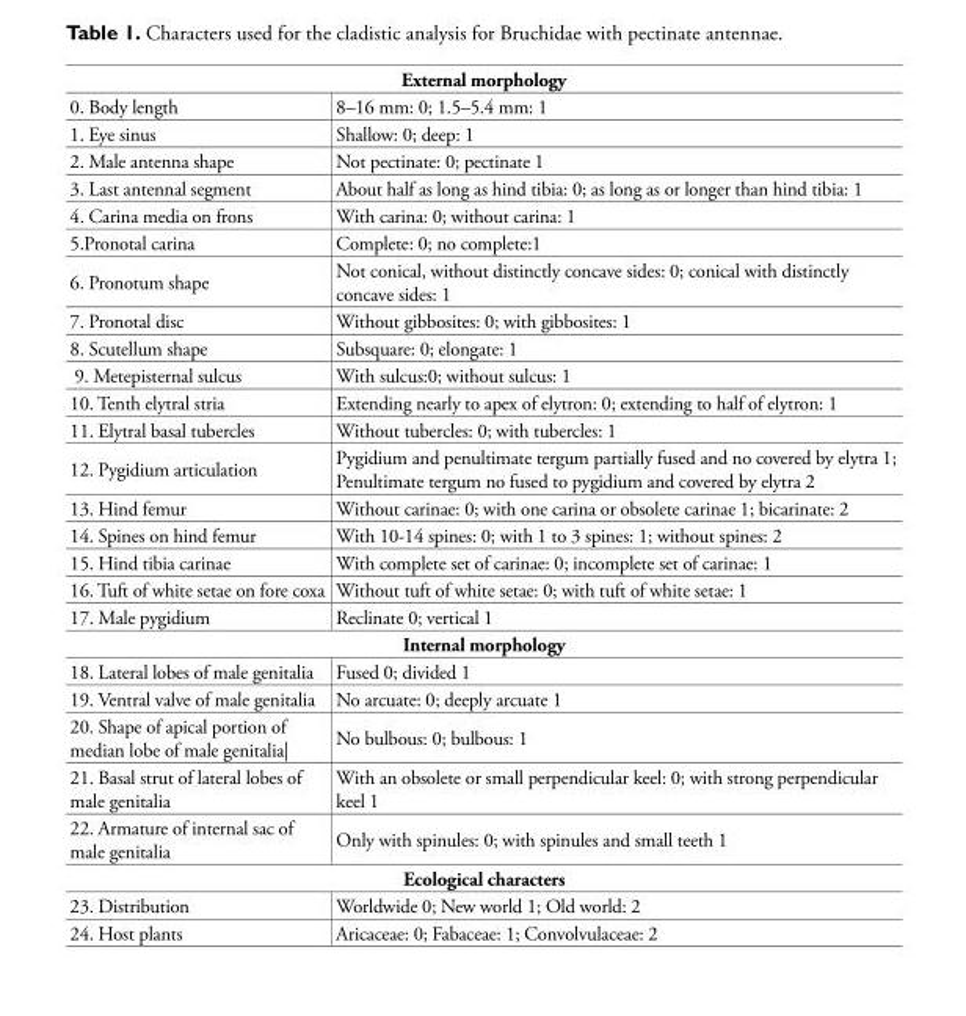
<table><tbody><tr><td colspan="2">External morphology</td></tr><tr><td>0. Body length</td><td>8–16 mm: 0; 1.5–5.4 mm: 1</td></tr><tr><td>1. Eye sinus</td><td>Shallow: 0; deep: 1</td></tr><tr><td>2. Male antenna shape</td><td>Not pectinate: 0; pectinate 1</td></tr><tr><td>3. Last antennal segment</td><td>About half as long as hind tibia: 0; as long as or longer than hind tibia: 1</td></tr><tr><td>4. Carina media on frons</td><td>With carina: 0; without carina: 1</td></tr><tr><td>5.Pronotal carina</td><td>Complete: 0; no complete:1</td></tr><tr><td>6. Pronotum shape</td><td>Not conical, without distinctly concave sides: 0; conical with distinctly concave sides: 1</td></tr><tr><td>7. Pronotal disc</td><td>Without gibbosites: 0; with gibbosites: 1</td></tr><tr><td>8. Scutellum shape</td><td>Subsquare: 0; elongate: 1</td></tr><tr><td>9. Metepisternal sulcus</td><td>With sulcus:0; without sulcus: 1</td></tr><tr><td>10. Tenth elytral stria</td><td>Extending nearly to apex of elytron: 0; extending to half of elytron: 1</td></tr><tr><td>11. Elytral basal tubercles</td><td>Without tubercles: 0; with tubercles: 1</td></tr><tr><td>12. Pygidium articulation</td><td>Pygidium and penultimate tergum partially fused and no covered by elytra 1; Penultimate tergum no fused to pygidium and covered by elytra 2</td></tr><tr><td>13. Hind femur</td><td>Without carinae: 0; with one carina or obsolete carinae 1; bicarinate: 2</td></tr><tr><td>14. Spines on hind femur</td><td>With 10-14 spines: 0; with 1 to 3 spines: 1; without spines: 2</td></tr><tr><td>15. Hind tibia carinae</td><td>With complete set of carinae: 0; incomplete set of carinae: 1</td></tr><tr><td>16. Tuft of white setae on fore coxa</td><td>Without tuft of white setae: 0; with tuft of white setae: 1</td></tr><tr><td>17. Male pygidium</td><td>Reclinate 0; vertical 1</td></tr><tr><td colspan="2">Internal morphology</td></tr><tr><td>18. Lateral lobes of male genitalia</td><td>Fused 0; divided 1</td></tr><tr><td>19. Ventral valve of male genitalia</td><td>No arcuate: 0; deeply arcuate 1</td></tr><tr><td>20. Shape of apical portion of median lobe of male genitalia|</td><td>No bulbous: 0; bulbous: 1</td></tr><tr><td>21. Basal strut of lateral lobes of male genitalia</td><td>With an obsolete or small perpendicular keel: 0; with strong perpendicular keel 1</td></tr><tr><td>22. Armature of internal sac of male genitalia</td><td>Only with spinules: 0; with spinules and small teeth 1</td></tr><tr><td colspan="2">Ecological characters</td></tr><tr><td>23. Distribution</td><td>Worldwide 0; New world 1; Old world: 2</td></tr><tr><td>24. Host plants</td><td>Aricaceae: 0; Fabaceae: 1; Convolvulaceae: 2</td></tr></tbody></table>